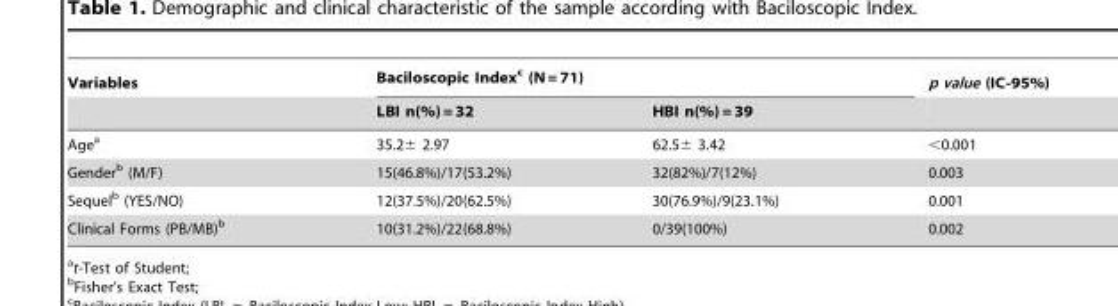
<table><thead><tr><td rowspan="2">Variables</td><td colspan="2">Baciloscopic Index<sup>c</sup> (N = 71)</td><td rowspan="2">p value (IC-95%)</td></tr><tr><td>LBI n(%) = 32</td><td>HBI n(%) = 39</td></tr></thead><tbody><tr><td>Age<sup>a</sup></td><td>35.2± 2.97</td><td>62.5± 3.42</td><td>&lt;0.001</td></tr><tr><td>Gender<sup>b</sup> (M/F)</td><td>15(46.8%)/17(53.2%)</td><td>32(82%)/7(12%)</td><td>0.003</td></tr><tr><td>Sequel<sup>b</sup> (YES/NO)</td><td>12(37.5%)/20(62.5%)</td><td>30(76.9%)/9(23.1%)</td><td>0.001</td></tr><tr><td>Clinical Forms (PB/MB)<sup>b</sup></td><td>10(31.2%)/22(68.8%)</td><td>0/39(100%)</td><td>0.002</td></tr></tbody></table>